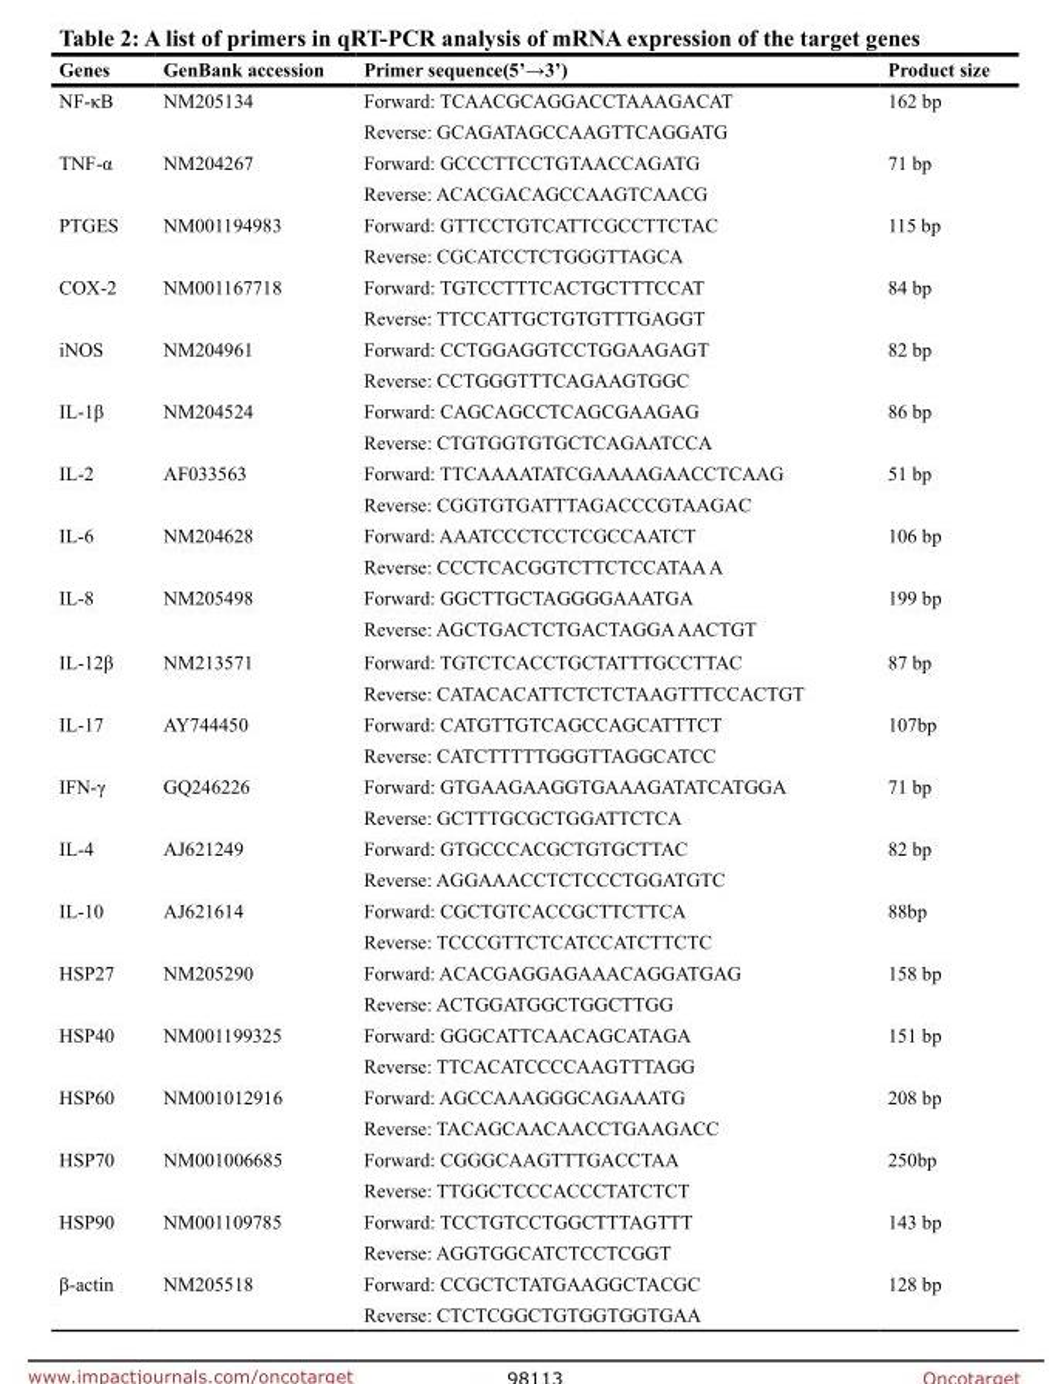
<table><thead><tr><td>Genes</td><td>GenBank accession</td><td>Primer sequence(5’→3’)</td><td>Product size</td></tr></thead><tbody><tr><td rowspan="2">NF-κB</td><td>NM205134</td><td>Forward: TCAACGCAGGACCTAAAGACAT</td><td>162 bp</td></tr><tr><td></td><td>Reverse: GCAGATAGCCAAGTTCAGGATG</td><td></td></tr><tr><td rowspan="2">TNF-α</td><td>NM204267</td><td>Forward: GCCCTTCCTGTAACCAGATG</td><td>71 bp</td></tr><tr><td></td><td>Reverse: ACACGACAGCCAAGTCAACG</td><td></td></tr><tr><td rowspan="2">PTGES</td><td>NM001194983</td><td>Forward: GTTCCTGTCATTCGCCTTCTAC</td><td>115 bp</td></tr><tr><td></td><td>Reverse: CGCATCCTCTGGGTTAGCA</td><td></td></tr><tr><td rowspan="2">COX-2</td><td>NM001167718</td><td>Forward: TGTCCTTTCACTGCTTTCCAT</td><td>84 bp</td></tr><tr><td></td><td>Reverse: TTCCATTGCTGTGTTTGAGGT</td><td></td></tr><tr><td rowspan="2">iNOS</td><td>NM204961</td><td>Forward: CCTGGAGGTCCTGGAAGAGT</td><td>82 bp</td></tr><tr><td></td><td>Reverse: CCTGGGTTTCAGAAGTGGC</td><td></td></tr><tr><td rowspan="2">IL-1β</td><td>NM204524</td><td>Forward: CAGCAGCCTCAGCGAAGAG</td><td>86 bp</td></tr><tr><td></td><td>Reverse: CTGTGGTGTGCTCAGAATCCA</td><td></td></tr><tr><td rowspan="2">IL-2</td><td>AF033563</td><td>Forward: TTCAAAATATCGAAAAGAACCTCAAG</td><td>51 bp</td></tr><tr><td></td><td>Reverse: CGGTGTGATTTAGACCCGTAAGAC</td><td></td></tr><tr><td rowspan="2">IL-6</td><td>NM204628</td><td>Forward: AAATCCCTCCTCGCCAATCT</td><td>106 bp</td></tr><tr><td></td><td>Reverse: CCCTCACGGTCTTCTCCATAA A</td><td></td></tr><tr><td rowspan="2">IL-8</td><td>NM205498</td><td>Forward: GGCTTGCTAGGGGAAATGA</td><td>199 bp</td></tr><tr><td></td><td>Reverse: AGCTGACTCTGACTAGGA AACTGT</td><td></td></tr><tr><td rowspan="2">IL-12β</td><td>NM213571</td><td>Forward: TGTCTCACCTGCTATTTGCCTTAC</td><td>87 bp</td></tr><tr><td></td><td>Reverse: CATACACATTCTCTCTAAGTTTCCACTGT</td><td></td></tr><tr><td rowspan="2">IL-17</td><td>AY744450</td><td>Forward: CATGTTGTCAGCCAGCATTTCT</td><td>107bp</td></tr><tr><td></td><td>Reverse: CATCTTTTTGGGTTAGGCATCC</td><td></td></tr><tr><td rowspan="2">IFN-γ</td><td>GQ246226</td><td>Forward: GTGAAGAAGGTGAAAGATATCATGGA</td><td>71 bp</td></tr><tr><td></td><td>Reverse: GCTTTGCGCTGGATTCTCA</td><td></td></tr><tr><td rowspan="2">IL-4</td><td>AJ621249</td><td>Forward: GTGCCCACGCTGTGCTTAC</td><td>82 bp</td></tr><tr><td></td><td>Reverse: AGGAAACCTCTCCCTGGATGTC</td><td></td></tr><tr><td rowspan="2">IL-10</td><td>AJ621614</td><td>Forward: CGCTGTCACCGCTTCTTCA</td><td>88bp</td></tr><tr><td></td><td>Reverse: TCCCGTTCTCATCCATCTTCTC</td><td></td></tr><tr><td rowspan="2">HSP27</td><td>NM205290</td><td>Forward: ACACGAGGAGAAACAGGATGAG</td><td>158 bp</td></tr><tr><td></td><td>Reverse: ACTGGATGGCTGGCTTGG</td><td></td></tr><tr><td rowspan="2">HSP40</td><td>NM001199325</td><td>Forward: GGGCATTCAACAGCATAGA</td><td>151 bp</td></tr><tr><td></td><td>Reverse: TTCACATCCCCAAGTTTAGG</td><td></td></tr><tr><td rowspan="2">HSP60</td><td>NM001012916</td><td>Forward: AGCCAAAGGGCAGAAATG</td><td>208 bp</td></tr><tr><td></td><td>Reverse: TACAGCAACAACCTGAAGACC</td><td></td></tr><tr><td rowspan="2">HSP70</td><td>NM001006685</td><td>Forward: CGGGCAAGTTTGACCTAA</td><td>250bp</td></tr><tr><td></td><td>Reverse: TTGGCTCCCACCCTATCTCT</td><td></td></tr><tr><td rowspan="2">HSP90</td><td>NM001109785</td><td>Forward: TCCTGTCCTGGCTTTAGTTT</td><td>143 bp</td></tr><tr><td></td><td>Reverse: AGGTGGCATCTCCTCGGT</td><td></td></tr><tr><td rowspan="2">β-actin</td><td>NM205518</td><td>Forward: CCGCTCTATGAAGGCTACGC</td><td>128 bp</td></tr><tr><td></td><td>Reverse: CTCTCGGCTGTGGTGGTGAA</td><td></td></tr></tbody></table>